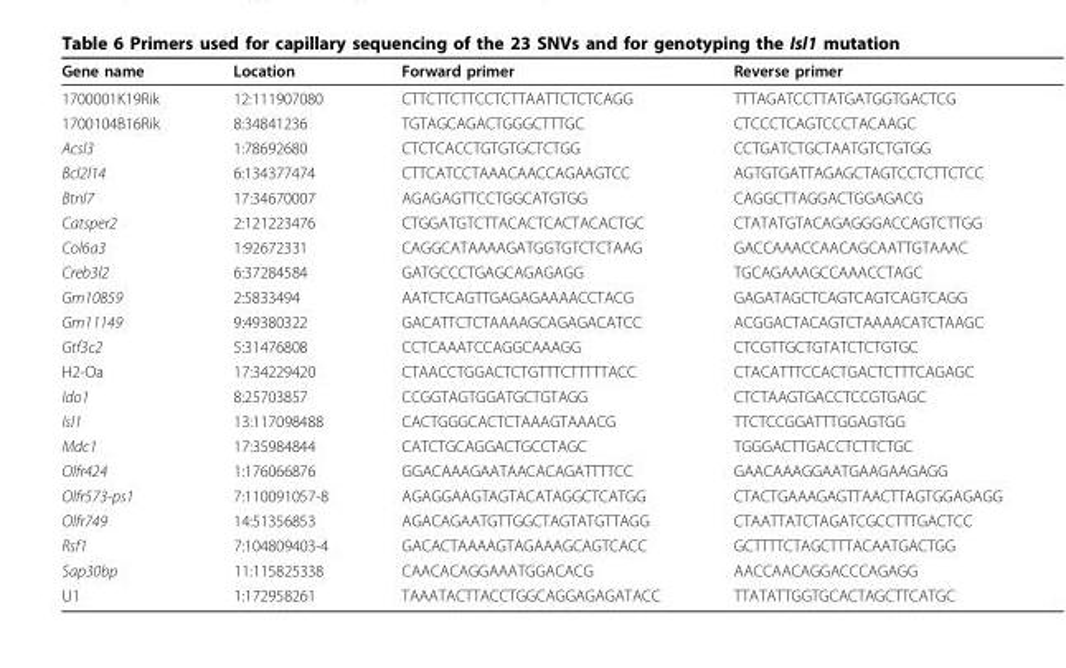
<table><thead><tr><td>Gene name</td><td>Location</td><td>Forward primer</td><td>Reverse primer</td></tr></thead><tbody><tr><td>1700001K19Rik</td><td>12:111907080</td><td>CTTCTTCTTCCTCTTAATTCTCTCAGG</td><td>TTTAGATCCTTATGATGGTGACTCG</td></tr><tr><td>1700104B16Rik</td><td>8:34841236</td><td>TGTAGCAGACTGGGCTTTGC</td><td>CTCCCTCAGTCCCTACAAGC</td></tr><tr><td>Acsl3</td><td>1:78692680</td><td>CTCTCACCTGTGTGCTCTGG</td><td>CCTGATCTGCTAATGTCTGTGG</td></tr><tr><td>Bcl2l14</td><td>6:134377474</td><td>CTTCATCCTAAACAACCAGAAGTCC</td><td>AGTGTGATTAGAGCTAGTCCTCTTCTCC</td></tr><tr><td>Btnl7</td><td>17:34670007</td><td>AGAGAGTTCCTGGCATGTGG</td><td>CAGGCTTAGGACTGGAGACG</td></tr><tr><td>Catsper2</td><td>2:121223476</td><td>CTGGATGTCTTACACTCACTACACTGC</td><td>CTATATGTACAGAGGGACCAGTCTTGG</td></tr><tr><td>Col6a3</td><td>1:92672331</td><td>CAGGCATAAAAGATGGTGTCTCTAAG</td><td>GACCAAACCAACAGCAATTGTAAAC</td></tr><tr><td>Creb3l2</td><td>6:37284584</td><td>GATGCCCTGAGCAGAGAGG</td><td>TGCAGAAAGCCAAACCTAGC</td></tr><tr><td>Gm10859</td><td>2:5833494</td><td>AATCTCAGTTGAGAGAAAACCTACG</td><td>GAGATAGCTCAGTCAGTCAGTCAGG</td></tr><tr><td>Gm11149</td><td>9:49380322</td><td>GACATTCTCTAAAAGCAGAGACATCC</td><td>ACGGACTACAGTCTAAAACATCTAAGC</td></tr><tr><td>Gtf3c2</td><td>5:31476808</td><td>CCTCAAATCCAGGCAAAGG</td><td>CTCGTTGCTGTATCTCTGTGC</td></tr><tr><td>H2-Oa</td><td>17:34229420</td><td>CTAACCTGGACTCTGTTTCTTTTTACC</td><td>CTACATTTCCACTGACTCTTTCAGAGC</td></tr><tr><td>Ido1</td><td>8:25703857</td><td>CCGGTAGTGGATGCTGTAGG</td><td>CTCTAAGTGACCTCCGTGAGC</td></tr><tr><td>Isl1</td><td>13:117098488</td><td>CACTGGGCACTCTAAAGTAAACG</td><td>TTCTCCGGATTTGGAGTGG</td></tr><tr><td>Mdc1</td><td>17:35984844</td><td>CATCTGCAGGACTGCCTAGC</td><td>TGGGACTTGACCTCTTCTGC</td></tr><tr><td>Olfr424</td><td>1:176066876</td><td>GGACAAAGAATAACACAGATTTTCC</td><td>GAACAAAGGAATGAAGAAGAGG</td></tr><tr><td>Olfr573-ps1</td><td>7:110091057-8</td><td>AGAGGAAGTAGTACATAGGCTCATGG</td><td>CTACTGAAAGAGTTAACTTAGTGGAGAGG</td></tr><tr><td>Olfr749</td><td>14:51356853</td><td>AGACAGAATGTTGGCTAGTATGTTAGG</td><td>CTAATTATCTAGATCGCCTTTGACTCC</td></tr><tr><td>Rsf1</td><td>7:104809403-4</td><td>GACACTAAAAGTAGAAAGCAGTCACC</td><td>GCTTTTCTAGCTTTACAATGACTGG</td></tr><tr><td>Sap30bp</td><td>11:115825338</td><td>CAACACAGGAAATGGACACG</td><td>AACCAACAGGACCCAGAGG</td></tr><tr><td>U1</td><td>1:172958261</td><td>TAAATACTTACCTGGCAGGAGAGATACC</td><td>TTATATTGGTGCACTAGCTTCATGC</td></tr></tbody></table>